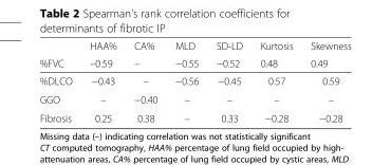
<table><thead><tr><td rowspan="2">%FVC</td><td rowspan="2">HAA% –0.59</td><td rowspan="2">CA% –</td><td rowspan="2">MLD −0.55</td><td rowspan="2">SD-LD −0.52</td><td rowspan="2">Kurtosis 0.48</td><td rowspan="2">Skewness 0.49</td></tr><tr></tr></thead><tbody><tr><td>%DLCO</td><td>−0.43</td><td>–</td><td>−0.56</td><td>−0.45</td><td>0.57</td><td>0.59</td></tr><tr><td>GGO</td><td>–</td><td>−0.40</td><td>–</td><td>–</td><td>–</td><td>–</td></tr><tr><td>Fibrosis</td><td>0.25</td><td>0.38</td><td>–</td><td>0.33</td><td>−0.28</td><td>−0.28</td></tr></tbody></table>